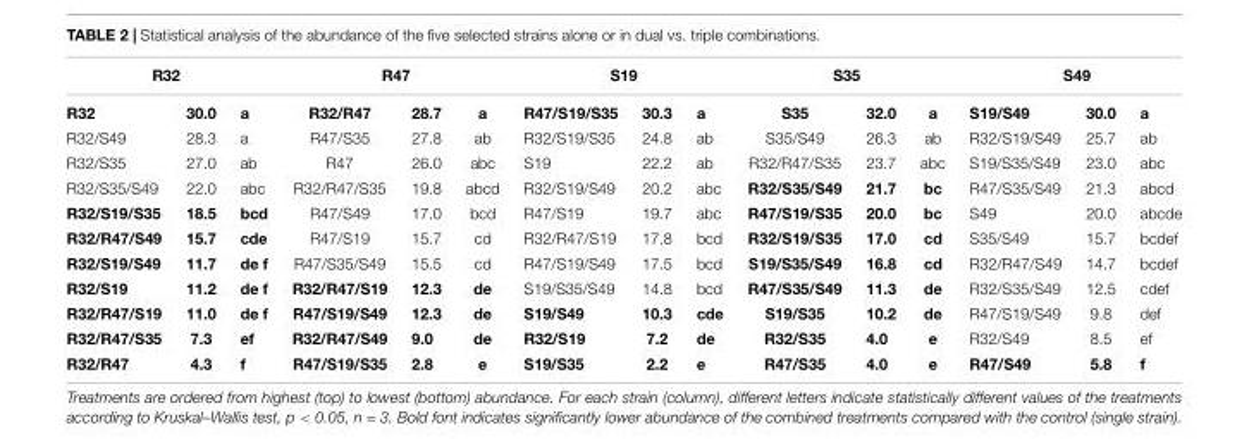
<table><thead><tr><td colspan="3">R32</td><td colspan="3">R47</td><td colspan="3">S19</td><td colspan="3">S35</td><td colspan="3">S49</td></tr><tr><td>R32</td><td>30.0</td><td>a</td><td>R32/R47</td><td>28.7</td><td>a</td><td>R47/S19/S35</td><td>30.3</td><td>a</td><td>S35</td><td>32.0</td><td>a</td><td>S19/S49</td><td>30.0</td><td>a</td></tr></thead><tbody><tr><td>R32/S49</td><td>28.3</td><td>a</td><td>R47/S35</td><td>27.8</td><td>ab</td><td>R32/S19/S35</td><td>24.8</td><td>ab</td><td>S35/S49</td><td>26.3</td><td>ab</td><td>R32/S19/S49</td><td>25.7</td><td>ab</td></tr><tr><td>R32/S35</td><td>27.0</td><td>ab</td><td>R47</td><td>26.0</td><td>abc</td><td>S19</td><td>22.2</td><td>ab</td><td>R32/R47/S35</td><td>23.7</td><td>abc</td><td>S19/S35/S49</td><td>23.0</td><td>abc</td></tr><tr><td>R32/S35/S49</td><td>22.0</td><td>abc</td><td>R32/R47/S35</td><td>19.8</td><td>abcd</td><td>R32/S19/S49</td><td>20.2</td><td>abc</td><td>R32/S35/S49</td><td>21.7</td><td>bc</td><td>R47/S35/S49</td><td>21.3</td><td>abcd</td></tr><tr><td>R32/S19/S35</td><td>18.5</td><td>bcd</td><td>R47/S49</td><td>17.0</td><td>bcd</td><td>R47/S19</td><td>19.7</td><td>abc</td><td>R47/S19/S35</td><td>20.0</td><td>bc</td><td>S49</td><td>20.0</td><td>abcde</td></tr><tr><td>R32/R47/S49</td><td>15.7</td><td>cde</td><td>R47/S19</td><td>15.7</td><td>cd</td><td>R32/R47/S19</td><td>17.8</td><td>bcd</td><td>R32/S19/S35</td><td>17.0</td><td>cd</td><td>S35/S49</td><td>15.7</td><td>bcdef</td></tr><tr><td>R32/S19/S49</td><td>11.7</td><td>de f</td><td>R47/S35/S49</td><td>15.5</td><td>cd</td><td>R47/S19/S49</td><td>17.5</td><td>bcd</td><td>S19/S35/S49</td><td>16.8</td><td>cd</td><td>R32/R47/S49</td><td>14.7</td><td>bcdef</td></tr><tr><td>R32/S19</td><td>11.2</td><td>de f</td><td>R32/R47/S19</td><td>12.3</td><td>de</td><td>S19/S35/S49</td><td>14.8</td><td>bcd</td><td>R47/S35/S49</td><td>11.3</td><td>de</td><td>R32/S35/S49</td><td>12.5</td><td>cdef</td></tr><tr><td>R32/R47/S19</td><td>11.0</td><td>de f</td><td>R47/S19/S49</td><td>12.3</td><td>de</td><td>S19/S49</td><td>10.3</td><td>cde</td><td>S19/S35</td><td>10.2</td><td>de</td><td>R47/S19/S49</td><td>9.8</td><td>def</td></tr><tr><td>R32/R47/S35</td><td>7.3</td><td>ef</td><td>R32/R47/S49</td><td>9.0</td><td>de</td><td>R32/S19</td><td>7.2</td><td>de</td><td>R32/S35</td><td>4.0</td><td>e</td><td>R32/S49</td><td>8.5</td><td>ef</td></tr><tr><td>R32/R47</td><td>4.3</td><td>f</td><td>R47/S19/S35</td><td>2.8</td><td>e</td><td>S19/S35</td><td>2.2</td><td>e</td><td>R47/S35</td><td>4.0</td><td>e</td><td>R47/S49</td><td>5.8</td><td>f</td></tr></tbody></table>